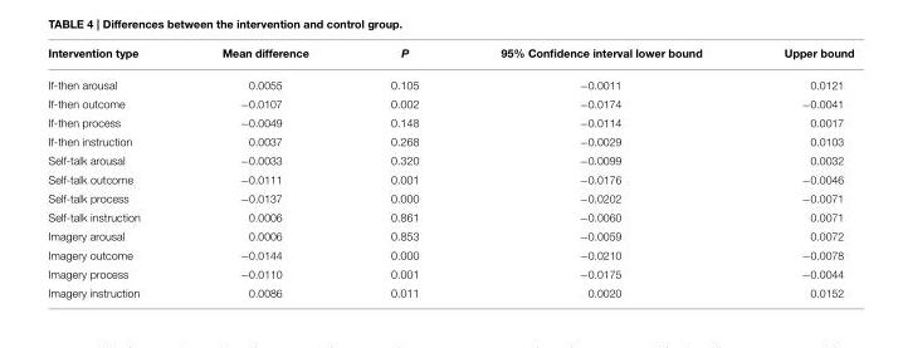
<table><thead><tr><td>Intervention type</td><td>Mean difference</td><td>P</td><td>95% Confidence interval lower bound</td><td>Upper bound</td></tr></thead><tbody><tr><td>If-then arousal</td><td>0.0055</td><td>0.105</td><td>−0.0011</td><td>0.0121</td></tr><tr><td>If-then outcome</td><td>−0.0107</td><td>0.002</td><td>−0.0174</td><td>−0.0041</td></tr><tr><td>If-then process</td><td>−0.0049</td><td>0.148</td><td>−0.0114</td><td>0.0017</td></tr><tr><td>If-then instruction</td><td>0.0037</td><td>0.268</td><td>−0.0029</td><td>0.0103</td></tr><tr><td>Self-talk arousal</td><td>−0.0033</td><td>0.320</td><td>−0.0099</td><td>0.0032</td></tr><tr><td>Self-talk outcome</td><td>−0.0111</td><td>0.001</td><td>−0.0176</td><td>−0.0046</td></tr><tr><td>Self-talk process</td><td>−0.0137</td><td>0.000</td><td>−0.0202</td><td>−0.0071</td></tr><tr><td>Self-talk instruction</td><td>0.0006</td><td>0.861</td><td>−0.0060</td><td>0.0071</td></tr><tr><td>Imagery arousal</td><td>0.0006</td><td>0.853</td><td>−0.0059</td><td>0.0072</td></tr><tr><td>Imagery outcome</td><td>−0.0144</td><td>0.000</td><td>−0.0210</td><td>−0.0078</td></tr><tr><td>Imagery process</td><td>−0.0110</td><td>0.001</td><td>−0.0175</td><td>−0.0044</td></tr><tr><td>Imagery instruction</td><td>0.0086</td><td>0.011</td><td>0.0020</td><td>0.0152</td></tr></tbody></table>